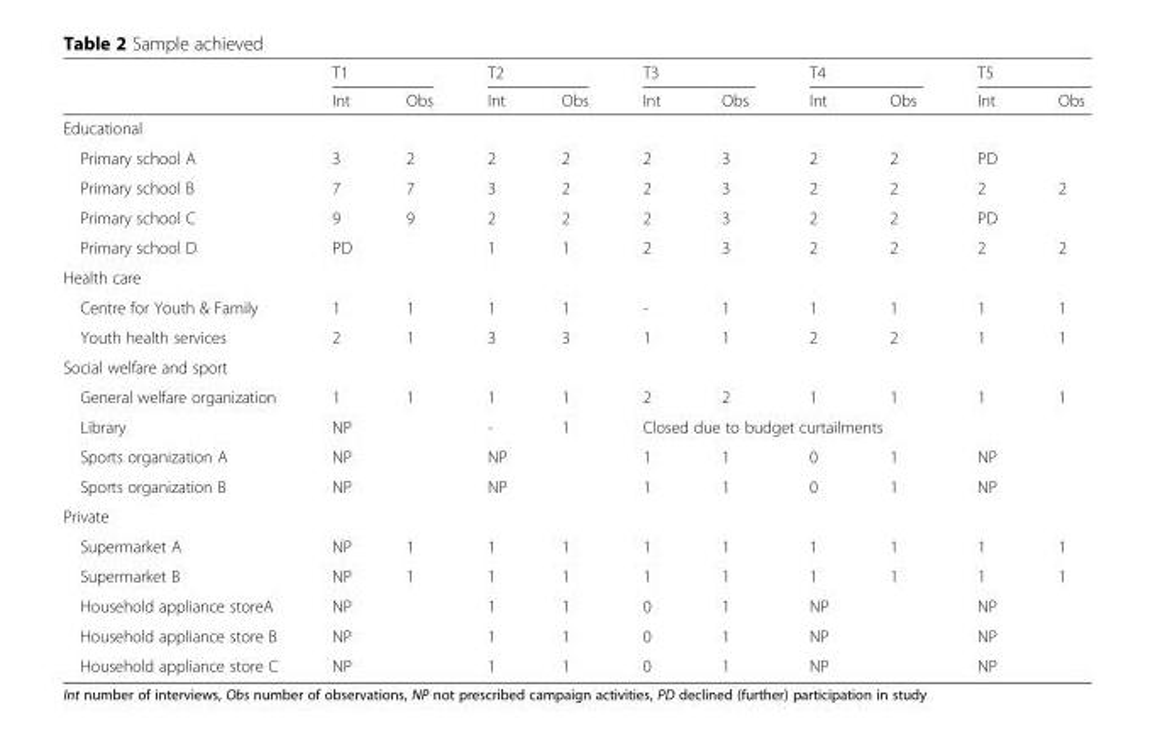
<table><thead><tr><td rowspan="2"></td><td colspan="2">T1</td><td colspan="2">T2</td><td colspan="2">T3</td><td colspan="2">T4</td><td colspan="2">T5</td></tr><tr><td>Int</td><td>Obs</td><td>Int</td><td>Obs</td><td>Int</td><td>Obs</td><td>Int</td><td>Obs</td><td>Int</td><td>Obs</td></tr></thead><tbody><tr><td colspan="11">Educational</td></tr><tr><td>Primary school A</td><td>3</td><td>2</td><td>2</td><td>2</td><td>2</td><td>3</td><td>2</td><td>2</td><td>PD</td><td></td></tr><tr><td>Primary school B</td><td>7</td><td>7</td><td>3</td><td>2</td><td>2</td><td>3</td><td>2</td><td>2</td><td>2</td><td>2</td></tr><tr><td>Primary school C</td><td>9</td><td>9</td><td>2</td><td>2</td><td>2</td><td>3</td><td>2</td><td>2</td><td>PD</td><td></td></tr><tr><td>Primary school D</td><td>PD</td><td></td><td>1</td><td>1</td><td>2</td><td>3</td><td>2</td><td>2</td><td>2</td><td>2</td></tr><tr><td colspan="11">Health care</td></tr><tr><td>Centre for Youth &amp; Family</td><td>1</td><td>1</td><td>1</td><td>1</td><td>-</td><td>1</td><td>1</td><td>1</td><td>1</td><td>1</td></tr><tr><td>Youth health services</td><td>2</td><td>1</td><td>3</td><td>3</td><td>1</td><td>1</td><td>2</td><td>2</td><td>1</td><td>1</td></tr><tr><td colspan="11">Social welfare and sport</td></tr><tr><td>General welfare organization</td><td>1</td><td>1</td><td>1</td><td>1</td><td>2</td><td>2</td><td>1</td><td>1</td><td>1</td><td>1</td></tr><tr><td>Library</td><td>NP</td><td></td><td>-</td><td>1</td><td colspan="6">Closed due to budget curtailments</td></tr><tr><td>Sports organization A</td><td>NP</td><td></td><td>NP</td><td></td><td>1</td><td>1</td><td>0</td><td>1</td><td>NP</td><td></td></tr><tr><td>Sports organization B</td><td>NP</td><td></td><td>NP</td><td></td><td>1</td><td>1</td><td>0</td><td>1</td><td>NP</td><td></td></tr><tr><td colspan="11">Private</td></tr><tr><td>Supermarket A</td><td>NP</td><td>1</td><td>1</td><td>1</td><td>1</td><td>1</td><td>1</td><td>1</td><td>1</td><td>1</td></tr><tr><td>Supermarket B</td><td>NP</td><td>1</td><td>1</td><td>1</td><td>1</td><td>1</td><td>1</td><td>1</td><td>1</td><td>1</td></tr><tr><td>Household appliance storeA</td><td>NP</td><td></td><td>1</td><td>1</td><td>0</td><td>1</td><td>NP</td><td></td><td>NP</td><td></td></tr><tr><td>Household appliance store B</td><td>NP</td><td></td><td>1</td><td>1</td><td>0</td><td>1</td><td>NP</td><td></td><td>NP</td><td></td></tr><tr><td>Household appliance store C</td><td>NP</td><td></td><td>1</td><td>1</td><td>0</td><td>1</td><td>NP</td><td></td><td>NP</td><td></td></tr></tbody></table>